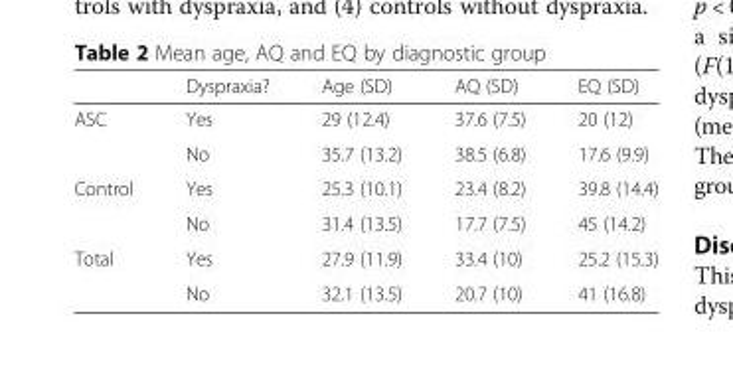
<table><thead><tr><td></td><td>Dyspraxia?</td><td>Age (SD)</td><td>AQ (SD)</td><td>EQ (SD)</td></tr></thead><tbody><tr><td rowspan="2">ASC</td><td>Yes</td><td>29 (12.4)</td><td>37.6 (7.5)</td><td>20 (12)</td></tr><tr><td>No</td><td>35.7 (13.2)</td><td>38.5 (6.8)</td><td>17.6 (9.9)</td></tr><tr><td rowspan="2">Control</td><td>Yes</td><td>25.3 (10.1)</td><td>23.4 (8.2)</td><td>39.8 (14.4)</td></tr><tr><td>No</td><td>31.4 (13.5)</td><td>17.7 (7.5)</td><td>45 (14.2)</td></tr><tr><td rowspan="2">Total</td><td>Yes</td><td>27.9 (11.9)</td><td>33.4 (10)</td><td>25.2 (15.3)</td></tr><tr><td>No</td><td>32.1 (13.5)</td><td>20.7 (10)</td><td>41 (16.8)</td></tr></tbody></table>